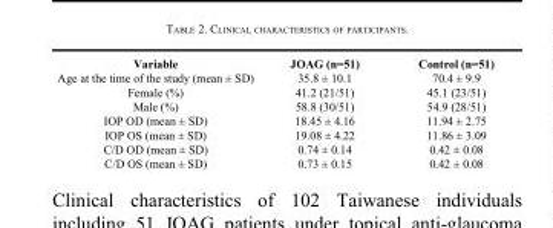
<table><tbody><tr><td>Variable</td><td>JOAG (n=51)</td><td>Control (n=51)</td></tr><tr><td>Age at the time of the study (mean ± SD)</td><td>35.8 ± 10.1</td><td>70.4 ± 9.9</td></tr><tr><td>Female (%)</td><td>41.2 (21/51)</td><td>45.1 (23/51)</td></tr><tr><td>Male (%)</td><td>58.8 (30/51)</td><td>54.9 (28/51)</td></tr><tr><td>IOP OD (mean ± SD)</td><td>18.45 ± 4.16</td><td>11.94 ± 2.75</td></tr><tr><td>IOP OS (mean ± SD)</td><td>19.08 ± 4.22</td><td>11.86 ± 3.09</td></tr><tr><td>C/D OD (mean ± SD)</td><td>0.74 ± 0.14</td><td>0.42 ± 0.08</td></tr><tr><td>C/D OS (mean ± SD)</td><td>0.73 ± 0.15</td><td>0.42 ± 0.08</td></tr></tbody></table>